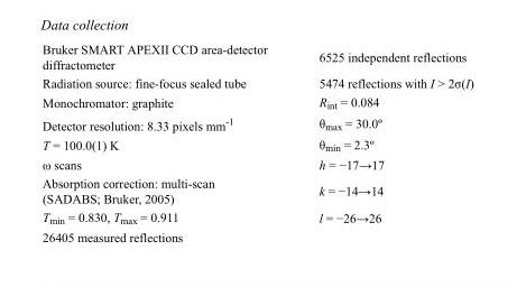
<table><tbody><tr><td>Bruker SMART APEXII CCD area-detector diffractometer</td><td>6525 independent reflections</td></tr><tr><td>Radiation source: fine-focus sealed tube</td><td>5474 reflections with I &gt; 2σ(I)</td></tr><tr><td>Monochromator: graphite</td><td>R<sub>int</sub> = 0.084</td></tr><tr><td>Detector resolution: 8.33 pixels mm<sup>-1</sup></td><td>θ<sub>max</sub> = 30.0º</td></tr><tr><td>T = 100.0(1) K</td><td>θ<sub>min</sub> = 2.3º</td></tr><tr><td>ω scans</td><td>h = −17→17</td></tr><tr><td>Absorption correction: multi-scan (SADABS; Bruker, 2005)</td><td>k = −14→14</td></tr><tr><td>T<sub>min</sub> = 0.830, T<sub>max</sub> = 0.911</td><td>l = −26→26</td></tr><tr><td>26405 measured reflections</td><td></td></tr></tbody></table>